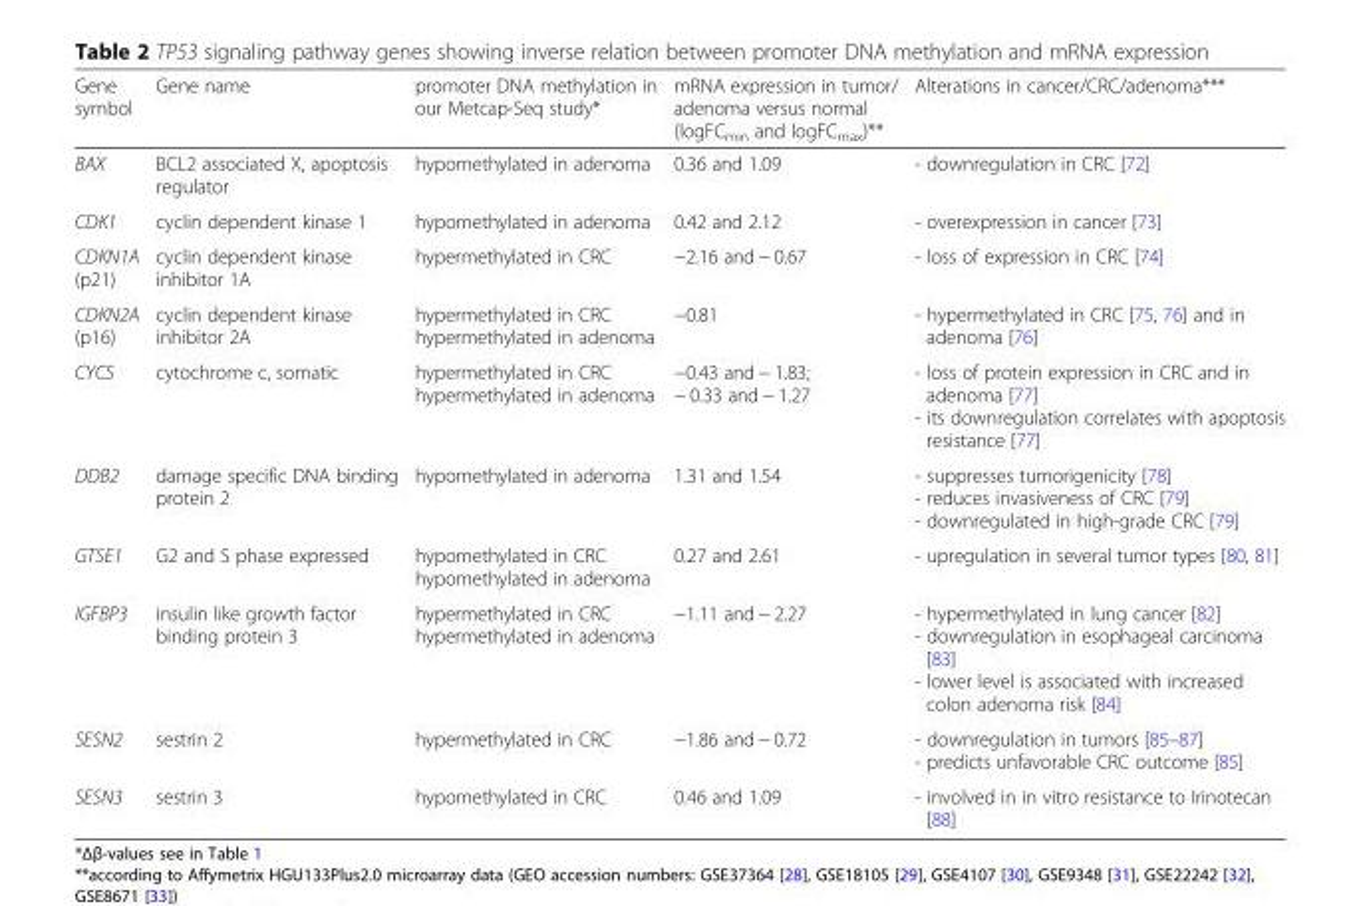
<table><thead><tr><td>Gene symbol</td><td>Gene name</td><td>promoter DNA methylation in our Metcap-Seq study*</td><td>mRNA expression in tumor/ adenoma versus normal (logFC<sub>min</sub> and logFC<sub>max</sub>)**</td><td>Alterations in cancer/CRC/adenoma***</td></tr></thead><tbody><tr><td>BAX</td><td>BCL2 associated X, apoptosis regulator</td><td>hypomethylated in adenoma</td><td>0.36 and 1.09</td><td>- downregulation in CRC [72]</td></tr><tr><td>CDK1</td><td>cyclin dependent kinase 1</td><td>hypomethylated in adenoma</td><td>0.42 and 2.12</td><td>- overexpression in cancer [73]</td></tr><tr><td>CDKN1A (p21)</td><td>cyclin dependent kinase inhibitor 1A</td><td>hypermethylated in CRC</td><td>−2.16 and − 0.67</td><td>- loss of expression in CRC [74]</td></tr><tr><td>CDKN2A (p16)</td><td>cyclin dependent kinase inhibitor 2A</td><td>hypermethylated in CRC hypermethylated in adenoma</td><td>−0.81</td><td>- hypermethylated in CRC [75, 76] and in adenoma [76]</td></tr><tr><td>CYCS</td><td>cytochrome c, somatic</td><td>hypermethylated in CRC hypermethylated in adenoma</td><td>−0.43 and − 1.83; − 0.33 and − 1.27</td><td>- loss of protein expression in CRC and in adenoma [77] - its downregulation correlates with apoptosis resistance [77]</td></tr><tr><td>DDB2</td><td>damage specific DNA binding protein 2</td><td>hypomethylated in adenoma</td><td>1.31 and 1.54</td><td>- suppresses tumorigenicity [78] - reduces invasiveness of CRC [79] - downregulated in high-grade CRC [79]</td></tr><tr><td>GTSE1</td><td>G2 and S phase expressed</td><td>hypomethylated in CRC hypomethylated in adenoma</td><td>0.27 and 2.61</td><td>- upregulation in several tumor types [80, 81]</td></tr><tr><td>IGFBP3</td><td>insulin like growth factor binding protein 3</td><td>hypermethylated in CRC hypermethylated in adenoma</td><td>−1.11 and − 2.27</td><td>- hypermethylated in lung cancer [82] - downregulation in esophageal carcinoma [83] - lower level is associated with increased colon adenoma risk [84]</td></tr><tr><td>SESN2</td><td>sestrin 2</td><td>hypermethylated in CRC</td><td>−1.86 and − 0.72</td><td>- downregulation in tumors [85–87] - predicts unfavorable CRC outcome [85]</td></tr><tr><td>SESN3</td><td>sestrin 3</td><td>hypomethylated in CRC</td><td>0.46 and 1.09</td><td>- involved in in vitro resistance to Irinotecan [88]</td></tr></tbody></table>